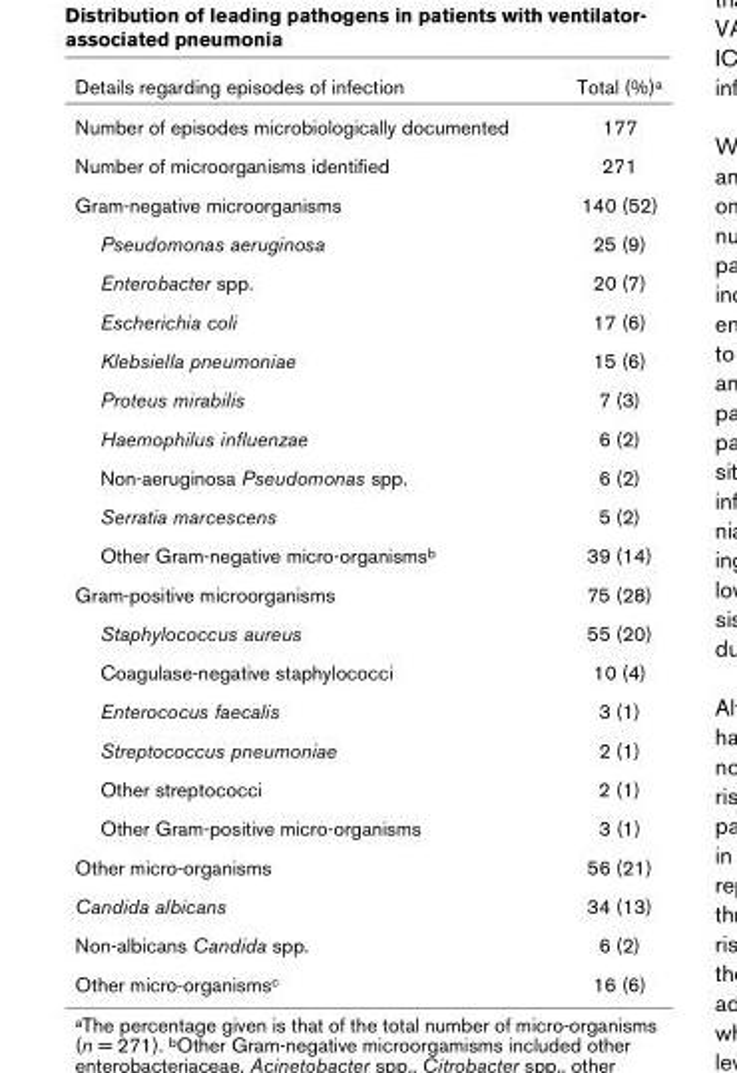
<table><thead><tr><td>Details regarding episodes of infection</td><td>Total (%)<sup>a</sup></td></tr></thead><tbody><tr><td>Number of episodes microbiologically documented</td><td>177</td></tr><tr><td>Number of microorganisms identified</td><td>271</td></tr><tr><td>Gram-negative microorganisms</td><td>140 (52)</td></tr><tr><td>Pseudomonas aeruginosa</td><td>25 (9)</td></tr><tr><td>Enterobacter spp.</td><td>20 (7)</td></tr><tr><td>Escherichia coli</td><td>17 (6)</td></tr><tr><td>Klebsiella pneumoniae</td><td>15 (6)</td></tr><tr><td>Proteus mirabilis</td><td>7 (3)</td></tr><tr><td>Haemophilus influenzae</td><td>6 (2)</td></tr><tr><td>Non-aeruginosa Pseudomonas spp.</td><td>6 (2)</td></tr><tr><td>Serratia marcescens</td><td>5 (2)</td></tr><tr><td>Other Gram-negative micro-organisms<sup>b</sup></td><td>39 (14)</td></tr><tr><td>Gram-positive microorganisms</td><td>75 (28)</td></tr><tr><td>Staphylococcus aureus</td><td>55 (20)</td></tr><tr><td>Coagulase-negative staphylococci</td><td>10 (4)</td></tr><tr><td>Enterococus faecalis</td><td>3 (1)</td></tr><tr><td>Streptococcus pneumoniae</td><td>2 (1)</td></tr><tr><td>Other streptococci</td><td>2 (1)</td></tr><tr><td>Other Gram-positive micro-organisms</td><td>3 (1)</td></tr><tr><td>Other micro-organisms</td><td>56 (21)</td></tr><tr><td>Candida albicans</td><td>34 (13)</td></tr><tr><td>Non-albicans Candida spp.</td><td>6 (2)</td></tr><tr><td>Other micro-organisms<sup>c</sup></td><td>16 (6)</td></tr></tbody></table>